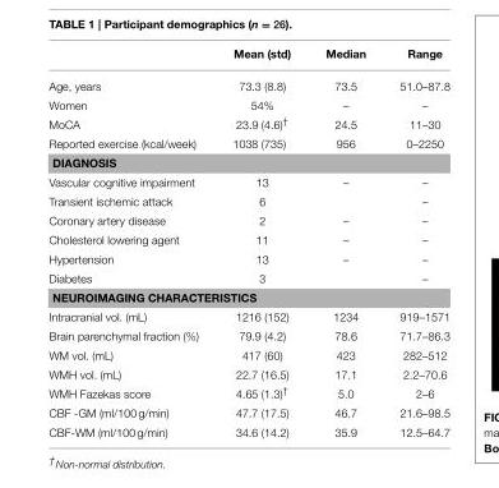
<table><thead><tr><td></td><td>Mean (std)</td><td>Median</td><td>Range</td></tr></thead><tbody><tr><td>Age, years</td><td>73.3 (8.8)</td><td>73.5</td><td>51.0–87.8</td></tr><tr><td>Women</td><td>54%</td><td>–</td><td>–</td></tr><tr><td>MoCA</td><td>23.9 (4.6)<sup>†</sup></td><td>24.5</td><td>11–30</td></tr><tr><td>Reported exercise (kcal/week)</td><td>1038 (735)</td><td>956</td><td>0–2250</td></tr><tr><td colspan="4">DIAGNOSIS</td></tr><tr><td>Vascular cognitive impairment</td><td>13</td><td>–</td><td>–</td></tr><tr><td>Transient ischemic attack</td><td>6</td><td></td><td>–</td></tr><tr><td>Coronary artery disease</td><td>2</td><td>–</td><td>–</td></tr><tr><td>Cholesterol lowering agent</td><td>11</td><td>–</td><td>–</td></tr><tr><td>Hypertension</td><td>13</td><td>–</td><td>–</td></tr><tr><td>Diabetes</td><td>3</td><td></td><td>–</td></tr><tr><td colspan="4">NEUROIMAGING CHARACTERISTICS</td></tr><tr><td>Intracranial vol. (mL)</td><td>1216 (152)</td><td>1234</td><td>919–1571</td></tr><tr><td>Brain parenchymal fraction (%)</td><td>79.9 (4.2)</td><td>78.6</td><td>71.7–86.3</td></tr><tr><td>WM vol. (mL)</td><td>417 (60)</td><td>423</td><td>282–512</td></tr><tr><td>WMH vol. (mL)</td><td>22.7 (16.5)</td><td>17.1</td><td>2.2–70.6</td></tr><tr><td>WMH Fazekas score</td><td>4.65 (1.3)<sup>†</sup></td><td>5.0</td><td>2–6</td></tr><tr><td>CBF -GM (ml/100 g/min)</td><td>47.7 (17.5)</td><td>46.7</td><td>21.6–98.5</td></tr><tr><td>CBF-WM (ml/100 g/min)</td><td>34.6 (14.2)</td><td>35.9</td><td>12.5–64.7</td></tr></tbody></table>